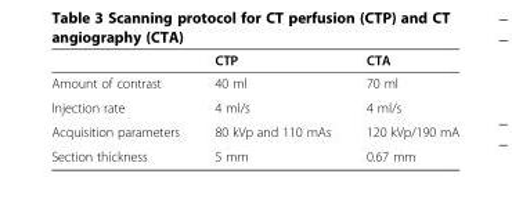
<table><thead><tr><td></td><td>CTP</td><td>CTA</td></tr></thead><tbody><tr><td>Amount of contrast</td><td>40 ml</td><td>70 ml</td></tr><tr><td>Injection rate</td><td>4 ml/s</td><td>4 ml/s</td></tr><tr><td>Acquisition parameters</td><td>80 kVp and 110 mAs</td><td>120 kVp/190 mA</td></tr><tr><td>Section thickness</td><td>5 mm</td><td>0.67 mm</td></tr></tbody></table>